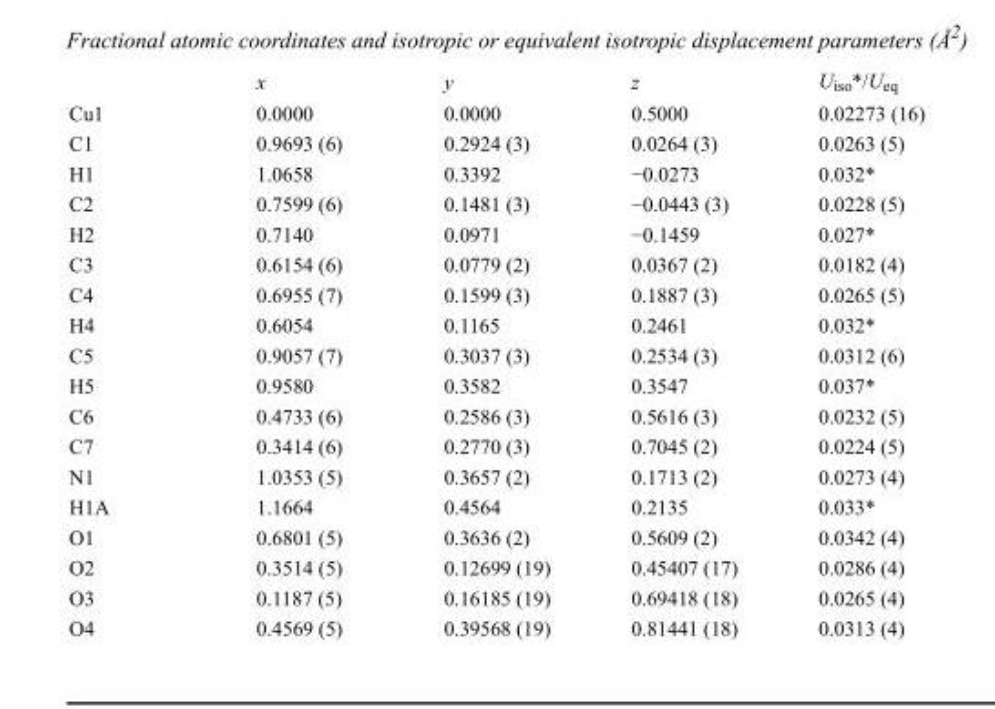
<table><thead><tr><td></td><td>x</td><td>y</td><td>z</td><td>U<sub>iso</sub>*/U<sub>eq</sub></td></tr></thead><tbody><tr><td>Cu1</td><td>0.0000</td><td>0.0000</td><td>0.5000</td><td>0.02273 (16)</td></tr><tr><td>C1</td><td>0.9693 (6)</td><td>0.2924 (3)</td><td>0.0264 (3)</td><td>0.0263 (5)</td></tr><tr><td>H1</td><td>1.0658</td><td>0.3392</td><td>−0.0273</td><td>0.032*</td></tr><tr><td>C2</td><td>0.7599 (6)</td><td>0.1481 (3)</td><td>−0.0443 (3)</td><td>0.0228 (5)</td></tr><tr><td>H2</td><td>0.7140</td><td>0.0971</td><td>−0.1459</td><td>0.027*</td></tr><tr><td>C3</td><td>0.6154 (6)</td><td>0.0779 (2)</td><td>0.0367 (2)</td><td>0.0182 (4)</td></tr><tr><td>C4</td><td>0.6955 (7)</td><td>0.1599 (3)</td><td>0.1887 (3)</td><td>0.0265 (5)</td></tr><tr><td>H4</td><td>0.6054</td><td>0.1165</td><td>0.2461</td><td>0.032*</td></tr><tr><td>C5</td><td>0.9057 (7)</td><td>0.3037 (3)</td><td>0.2534 (3)</td><td>0.0312 (6)</td></tr><tr><td>H5</td><td>0.9580</td><td>0.3582</td><td>0.3547</td><td>0.037*</td></tr><tr><td>C6</td><td>0.4733 (6)</td><td>0.2586 (3)</td><td>0.5616 (3)</td><td>0.0232 (5)</td></tr><tr><td>C7</td><td>0.3414 (6)</td><td>0.2770 (3)</td><td>0.7045 (2)</td><td>0.0224 (5)</td></tr><tr><td>N1</td><td>1.0353 (5)</td><td>0.3657 (2)</td><td>0.1713 (2)</td><td>0.0273 (4)</td></tr><tr><td>H1A</td><td>1.1664</td><td>0.4564</td><td>0.2135</td><td>0.033*</td></tr><tr><td>O1</td><td>0.6801 (5)</td><td>0.3636 (2)</td><td>0.5609 (2)</td><td>0.0342 (4)</td></tr><tr><td>O2</td><td>0.3514 (5)</td><td>0.12699 (19)</td><td>0.45407 (17)</td><td>0.0286 (4)</td></tr><tr><td>O3</td><td>0.1187 (5)</td><td>0.16185 (19)</td><td>0.69418 (18)</td><td>0.0265 (4)</td></tr><tr><td>O4</td><td>0.4569 (5)</td><td>0.39568 (19)</td><td>0.81441 (18)</td><td>0.0313 (4)</td></tr></tbody></table>